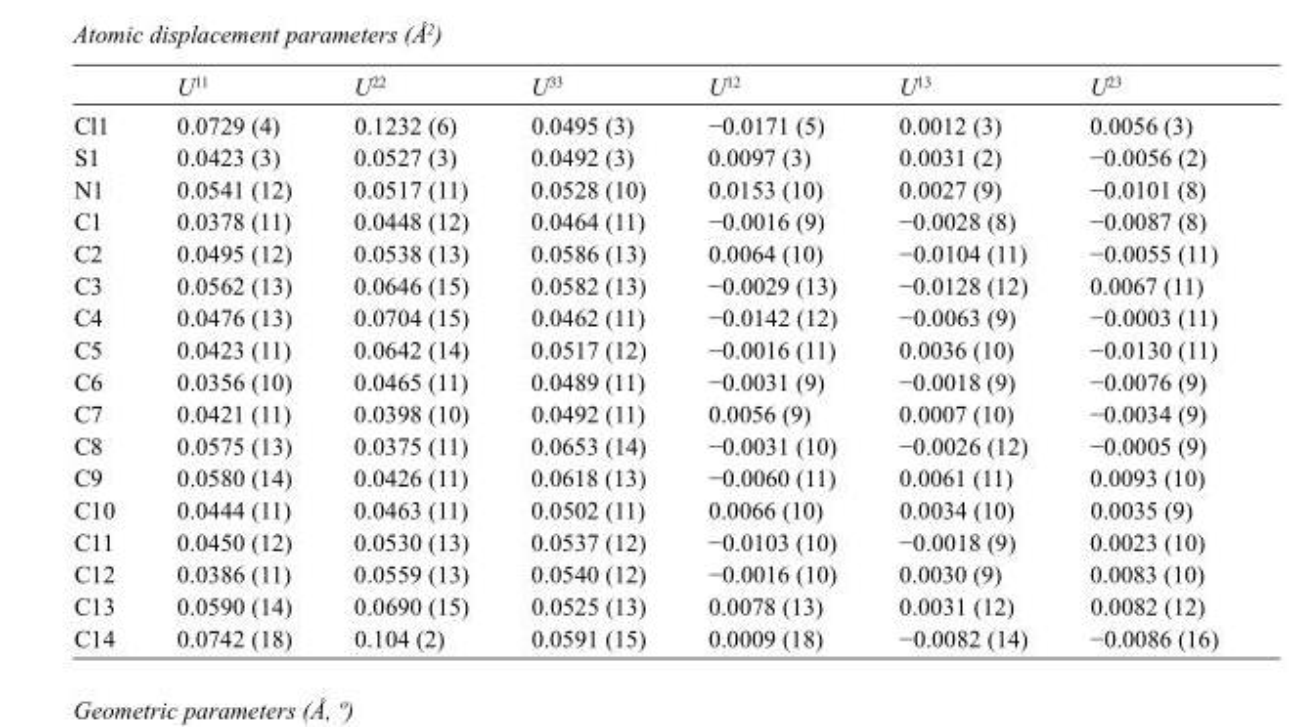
<table><thead><tr><td></td><td>U<sup>11</sup></td><td>U<sup>22</sup></td><td>U<sup>33</sup></td><td>U<sup>12</sup></td><td>U<sup>13</sup></td><td>U<sup>23</sup></td></tr></thead><tbody><tr><td>Cl1</td><td>0.0729 (4)</td><td>0.1232 (6)</td><td>0.0495 (3)</td><td>−0.0171 (5)</td><td>0.0012 (3)</td><td>0.0056 (3)</td></tr><tr><td>S1</td><td>0.0423 (3)</td><td>0.0527 (3)</td><td>0.0492 (3)</td><td>0.0097 (3)</td><td>0.0031 (2)</td><td>−0.0056 (2)</td></tr><tr><td>N1</td><td>0.0541 (12)</td><td>0.0517 (11)</td><td>0.0528 (10)</td><td>0.0153 (10)</td><td>0.0027 (9)</td><td>−0.0101 (8)</td></tr><tr><td>C1</td><td>0.0378 (11)</td><td>0.0448 (12)</td><td>0.0464 (11)</td><td>−0.0016 (9)</td><td>−0.0028 (8)</td><td>−0.0087 (8)</td></tr><tr><td>C2</td><td>0.0495 (12)</td><td>0.0538 (13)</td><td>0.0586 (13)</td><td>0.0064 (10)</td><td>−0.0104 (11)</td><td>−0.0055 (11)</td></tr><tr><td>C3</td><td>0.0562 (13)</td><td>0.0646 (15)</td><td>0.0582 (13)</td><td>−0.0029 (13)</td><td>−0.0128 (12)</td><td>0.0067 (11)</td></tr><tr><td>C4</td><td>0.0476 (13)</td><td>0.0704 (15)</td><td>0.0462 (11)</td><td>−0.0142 (12)</td><td>−0.0063 (9)</td><td>−0.0003 (11)</td></tr><tr><td>C5</td><td>0.0423 (11)</td><td>0.0642 (14)</td><td>0.0517 (12)</td><td>−0.0016 (11)</td><td>0.0036 (10)</td><td>−0.0130 (11)</td></tr><tr><td>C6</td><td>0.0356 (10)</td><td>0.0465 (11)</td><td>0.0489 (11)</td><td>−0.0031 (9)</td><td>−0.0018 (9)</td><td>−0.0076 (9)</td></tr><tr><td>C7</td><td>0.0421 (11)</td><td>0.0398 (10)</td><td>0.0492 (11)</td><td>0.0056 (9)</td><td>0.0007 (10)</td><td>−0.0034 (9)</td></tr><tr><td>C8</td><td>0.0575 (13)</td><td>0.0375 (11)</td><td>0.0653 (14)</td><td>−0.0031 (10)</td><td>−0.0026 (12)</td><td>−0.0005 (9)</td></tr><tr><td>C9</td><td>0.0580 (14)</td><td>0.0426 (11)</td><td>0.0618 (13)</td><td>−0.0060 (11)</td><td>0.0061 (11)</td><td>0.0093 (10)</td></tr><tr><td>C10</td><td>0.0444 (11)</td><td>0.0463 (11)</td><td>0.0502 (11)</td><td>0.0066 (10)</td><td>0.0034 (10)</td><td>0.0035 (9)</td></tr><tr><td>C11</td><td>0.0450 (12)</td><td>0.0530 (13)</td><td>0.0537 (12)</td><td>−0.0103 (10)</td><td>−0.0018 (9)</td><td>0.0023 (10)</td></tr><tr><td>C12</td><td>0.0386 (11)</td><td>0.0559 (13)</td><td>0.0540 (12)</td><td>−0.0016 (10)</td><td>0.0030 (9)</td><td>0.0083 (10)</td></tr><tr><td>C13</td><td>0.0590 (14)</td><td>0.0690 (15)</td><td>0.0525 (13)</td><td>0.0078 (13)</td><td>0.0031 (12)</td><td>0.0082 (12)</td></tr><tr><td>C14</td><td>0.0742 (18)</td><td>0.104 (2)</td><td>0.0591 (15)</td><td>0.0009 (18)</td><td>−0.0082 (14)</td><td>−0.0086 (16)</td></tr></tbody></table>